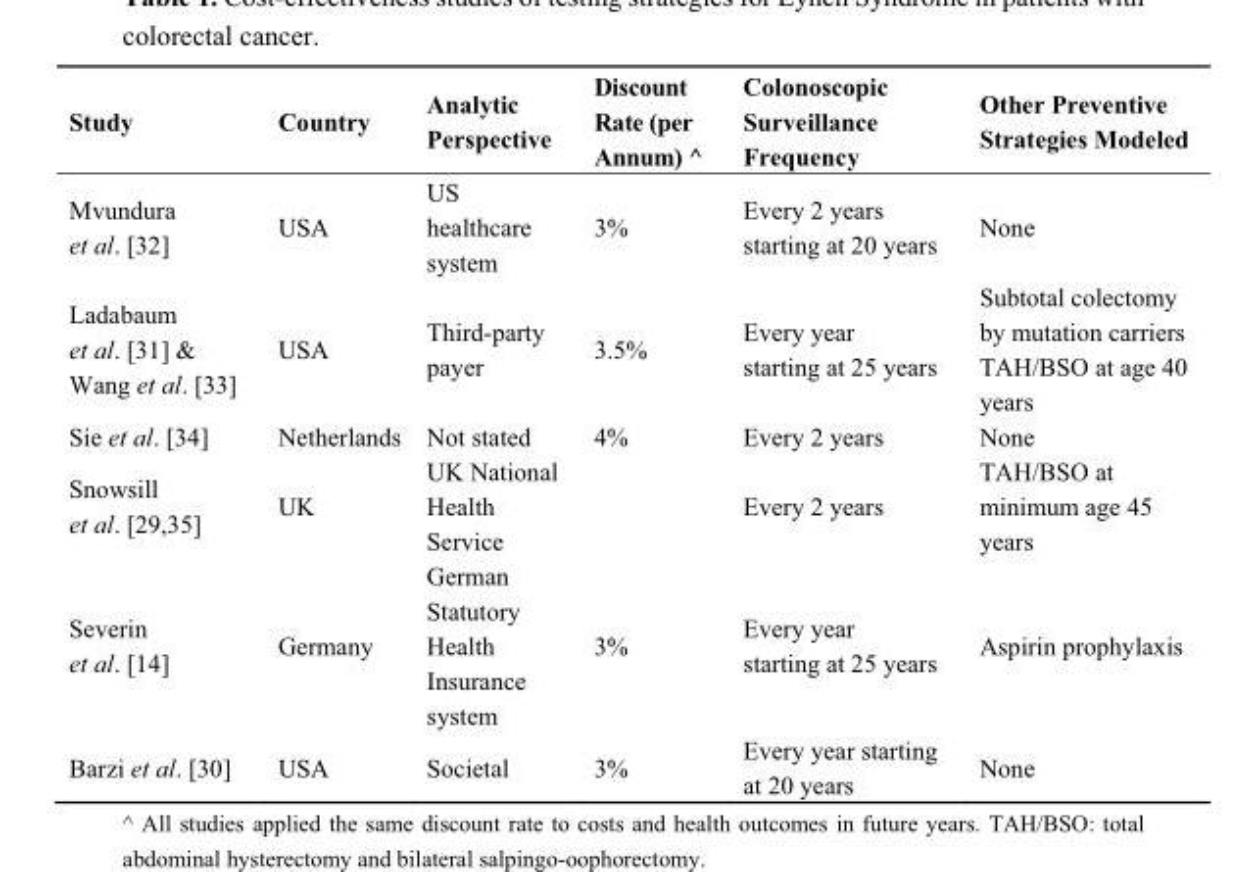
<table><thead><tr><td>Study</td><td>Country</td><td>Analytic Perspective</td><td>Discount Rate (per Annum) ^</td><td>Colonoscopic Surveillance Frequency</td><td>Other Preventive Strategies Modeled</td></tr></thead><tbody><tr><td>Mvundura et al. [32]</td><td>USA</td><td>US healthcare system</td><td>3%</td><td>Every 2 years starting at 20 years</td><td>None</td></tr><tr><td>Ladabaum et al. [31] &amp; Wang et al. [33]</td><td>USA</td><td>Third-party payer</td><td>3.5%</td><td>Every year starting at 25 years</td><td>Subtotal colectomy by mutation carriers TAH/BSO at age 40 years</td></tr><tr><td>Sie et al. [34]</td><td>Netherlands</td><td>Not stated</td><td>4%</td><td>Every 2 years</td><td>None</td></tr><tr><td>Snowsill et al. [29,35]</td><td>UK</td><td>UK National Health Service</td><td></td><td>Every 2 years</td><td>TAH/BSO at minimum age 45 years</td></tr><tr><td>Severin et al. [14]</td><td>Germany</td><td>German Statutory Health Insurance system</td><td>3%</td><td>Every year starting at 25 years</td><td>Aspirin prophylaxis</td></tr><tr><td>Barzi et al. [30]</td><td>USA</td><td>Societal</td><td>3%</td><td>Every year starting at 20 years</td><td>None</td></tr></tbody></table>